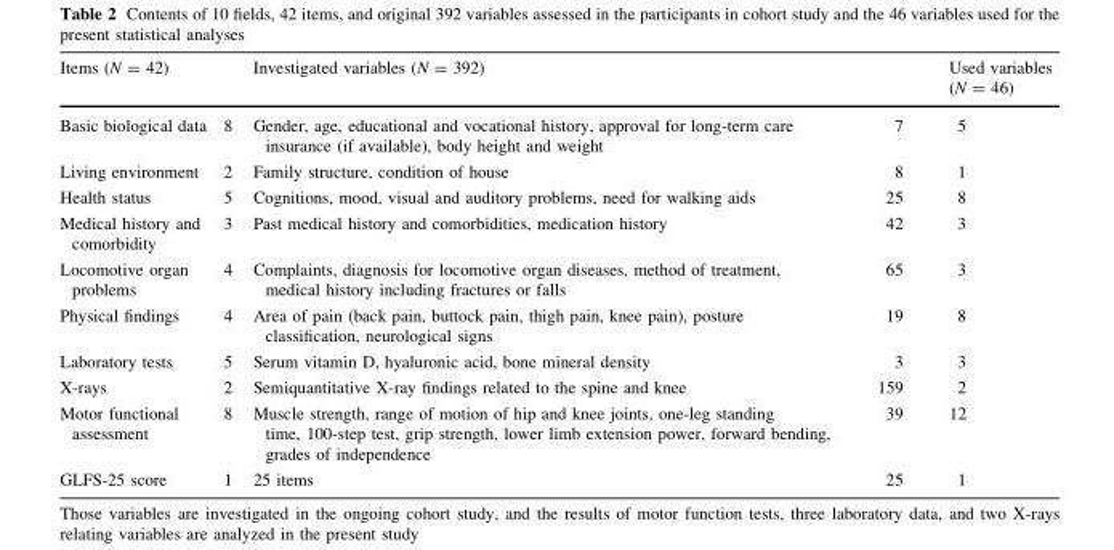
<table><thead><tr><td colspan="2">Items (N = 42)</td><td colspan="2">Investigated variables (N = 392)</td><td rowspan="2">Used variables (N = 46) 5</td></tr><tr><td>Basic biological data</td><td>8</td><td>Gender, age, educational and vocational history, approval for long-term care insurance (if available), body height and weight</td><td>7</td></tr></thead><tbody><tr><td>Living environment</td><td>2</td><td>Family structure, condition of house</td><td>8</td><td>1</td></tr><tr><td>Health status</td><td>5</td><td>Cognitions, mood, visual and auditory problems, need for walking aids</td><td>25</td><td>8</td></tr><tr><td>Medical history and comorbidity</td><td>3</td><td>Past medical history and comorbidities, medication history</td><td>42</td><td>3</td></tr><tr><td>Locomotive organ problems</td><td>4</td><td>Complaints, diagnosis for locomotive organ diseases, method of treatment, medical history including fractures or falls</td><td>65</td><td>3</td></tr><tr><td>Physical findings</td><td>4</td><td>Area of pain (back pain, buttock pain, thigh pain, knee pain), posture classification, neurological signs</td><td>19</td><td>8</td></tr><tr><td>Laboratory tests</td><td>5</td><td>Serum vitamin D, hyaluronic acid, bone mineral density</td><td>3</td><td>3</td></tr><tr><td>X-rays</td><td>2</td><td>Semiquantitative X-ray findings related to the spine and knee</td><td>159</td><td>2</td></tr><tr><td>Motor functional assessment</td><td>8</td><td>Muscle strength, range of motion of hip and knee joints, one-leg standing time, 100-step test, grip strength, lower limb extension power, forward bending, grades of independence</td><td>39</td><td>12</td></tr><tr><td>GLFS-25 score</td><td>1</td><td>25 items</td><td>25</td><td>1</td></tr></tbody></table>